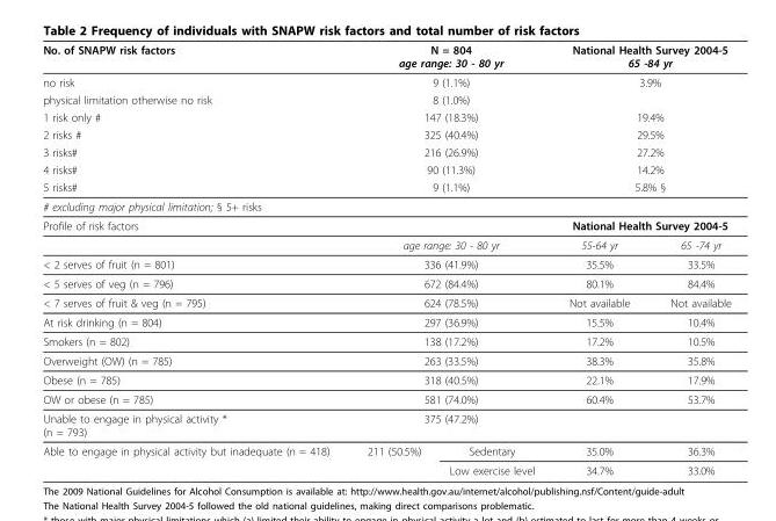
<table><thead><tr><td>No. of SNAPW risk factors</td><td colspan="2">N = 804 age range: 30 - 80 yr</td><td colspan="2">National Health Survey 2004-5 65 -84 yr</td></tr></thead><tbody><tr><td>no risk</td><td colspan="2">9 (1.1%)</td><td colspan="2">3.9%</td></tr><tr><td>physical limitation otherwise no risk</td><td colspan="2">8 (1.0%)</td><td></td><td></td></tr><tr><td>1 risk only #</td><td colspan="2">147 (18.3%)</td><td colspan="2">19.4%</td></tr><tr><td>2 risks #</td><td colspan="2">325 (40.4%)</td><td colspan="2">29.5%</td></tr><tr><td>3 risks#</td><td colspan="2">216 (26.9%)</td><td colspan="2">27.2%</td></tr><tr><td>4 risks#</td><td colspan="2">90 (11.3%)</td><td colspan="2">14.2%</td></tr><tr><td>5 risks#</td><td colspan="2">9 (1.1%)</td><td colspan="2">5.8% §</td></tr><tr><td colspan="5"># excluding major physical limitation; § 5+ risks</td></tr><tr><td rowspan="2">Profile of risk factors</td><td></td><td></td><td colspan="2">National Health Survey 2004-5</td></tr><tr><td colspan="2">age range: 30 - 80 yr</td><td>55-64 yr</td><td>65 -74 yr</td></tr><tr><td>&lt; 2 serves of fruit (n = 801)</td><td colspan="2">336 (41.9%)</td><td>35.5%</td><td>33.5%</td></tr><tr><td>&lt; 5 serves of veg (n = 796)</td><td colspan="2">672 (84.4%)</td><td>80.1%</td><td>84.4%</td></tr><tr><td>&lt; 7 serves of fruit &amp; veg (n = 795)</td><td colspan="2">624 (78.5%)</td><td>Not available</td><td>Not available</td></tr><tr><td>At risk drinking (n = 804)</td><td colspan="2">297 (36.9%)</td><td>15.5%</td><td>10.4%</td></tr><tr><td>Smokers (n = 802)</td><td colspan="2">138 (17.2%)</td><td>17.2%</td><td>10.5%</td></tr><tr><td>Overweight (OW) (n = 785)</td><td colspan="2">263 (33.5%)</td><td>38.3%</td><td>35.8%</td></tr><tr><td>Obese (n = 785)</td><td colspan="2">318 (40.5%)</td><td>22.1%</td><td>17.9%</td></tr><tr><td>OW or obese (n = 785)</td><td colspan="2">581 (74.0%)</td><td>60.4%</td><td>53.7%</td></tr><tr><td>Unable to engage in physical activity * (n = 793)</td><td colspan="2">375 (47.2%)</td><td></td><td></td></tr><tr><td rowspan="2">Able to engage in physical activity but inadequate (n = 418)</td><td>211 (50.5%)</td><td>Sedentary</td><td>35.0%</td><td>36.3%</td></tr><tr><td></td><td>Low exercise level</td><td>34.7%</td><td>33.0%</td></tr></tbody></table>